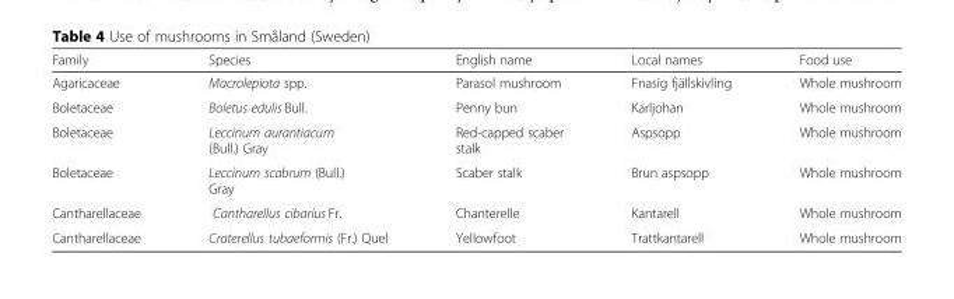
<table><thead><tr><td>Family</td><td>Species</td><td>English name</td><td>Local names</td><td>Food use</td></tr></thead><tbody><tr><td>Agaricaceae</td><td>Macrolepiota spp.</td><td>Parasol mushroom</td><td>Fnasig fjällskivling</td><td>Whole mushroom</td></tr><tr><td>Boletaceae</td><td>Boletus edulis Bull.</td><td>Penny bun</td><td>Karljohan</td><td>Whole mushroom</td></tr><tr><td>Boletaceae</td><td>Leccinum aurantiacum (Bull.) Gray</td><td>Red-capped scaber stalk</td><td>Aspsopp</td><td>Whole mushroom</td></tr><tr><td>Boletaceae</td><td>Leccinum scabrum (Bull.) Gray</td><td>Scaber stalk</td><td>Brun aspsopp</td><td>Whole mushroom</td></tr><tr><td>Cantharellaceae</td><td>Cantharellus cibarius Fr.</td><td>Chanterelle</td><td>Kantarell</td><td>Whole mushroom</td></tr><tr><td>Cantharellaceae</td><td>Craterellus tubaeformis (Fr.) Quel</td><td>Yellowfoot</td><td>Trattkantarell</td><td>Whole mushroom</td></tr></tbody></table>